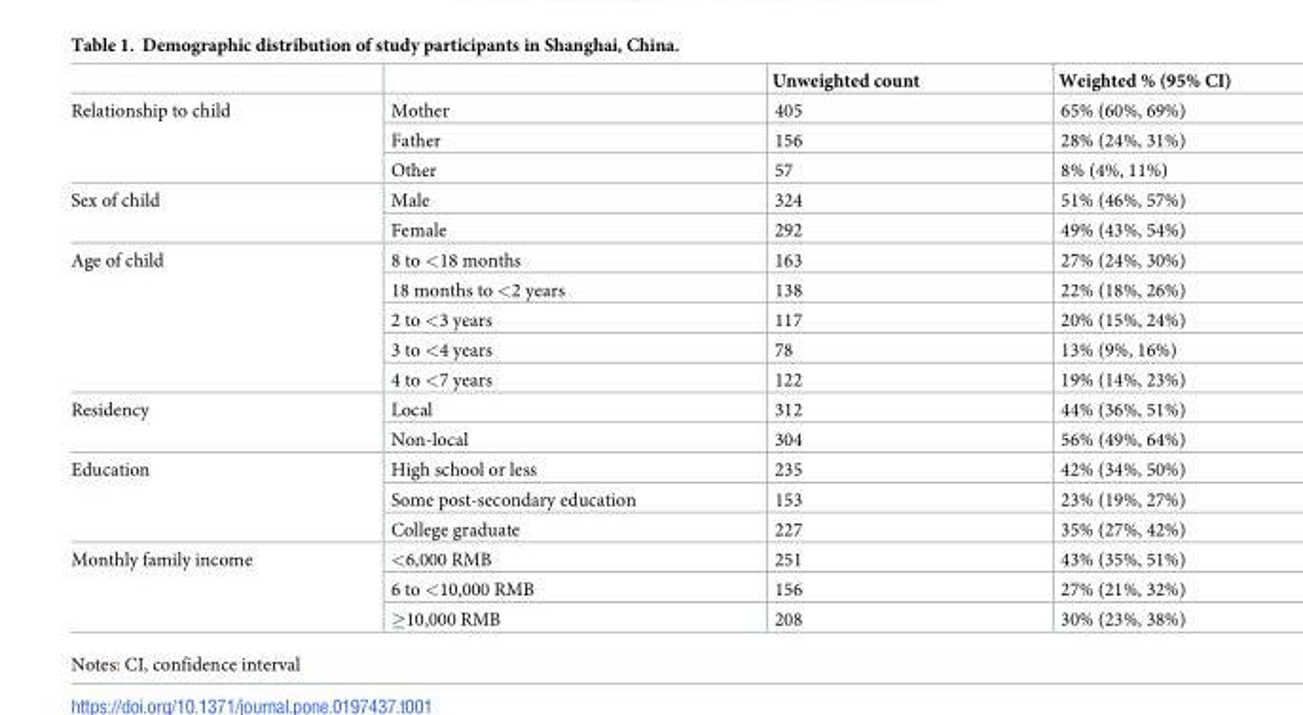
<table><thead><tr><td></td><td></td><td>Unweighted count</td><td>Weighted % (95% CI)</td></tr></thead><tbody><tr><td rowspan="3">Relationship to child</td><td>Mother</td><td>405</td><td>65% (60%, 69%)</td></tr><tr><td>Father</td><td>156</td><td>28% (24%, 31%)</td></tr><tr><td>Other</td><td>57</td><td>8% (4%, 11%)</td></tr><tr><td rowspan="2">Sex of child</td><td>Male</td><td>324</td><td>51% (46%, 57%)</td></tr><tr><td>Female</td><td>292</td><td>49% (43%, 54%)</td></tr><tr><td rowspan="5">Age of child</td><td>8 to &lt;18 months</td><td>163</td><td>27% (24%, 30%)</td></tr><tr><td>18 months to &lt;2 years</td><td>138</td><td>22% (18%, 26%)</td></tr><tr><td>2 to &lt;3 years</td><td>117</td><td>20% (15%, 24%)</td></tr><tr><td>3 to &lt;4 years</td><td>78</td><td>13% (9%, 16%)</td></tr><tr><td>4 to &lt;7 years</td><td>122</td><td>19% (14%, 23%)</td></tr><tr><td rowspan="2">Residency</td><td>Local</td><td>312</td><td>44% (36%, 51%)</td></tr><tr><td>Non-local</td><td>304</td><td>56% (49%, 64%)</td></tr><tr><td rowspan="3">Education</td><td>High school or less</td><td>235</td><td>42% (34%, 50%)</td></tr><tr><td>Some post-secondary education</td><td>153</td><td>23% (19%, 27%)</td></tr><tr><td>College graduate</td><td>227</td><td>35% (27%, 42%)</td></tr><tr><td rowspan="3">Monthly family income</td><td>&lt;6,000 RMB</td><td>251</td><td>43% (35%, 51%)</td></tr><tr><td>6 to &lt;10,000 RMB</td><td>156</td><td>27% (21%, 32%)</td></tr><tr><td>≥10,000 RMB</td><td>208</td><td>30% (23%, 38%)</td></tr></tbody></table>